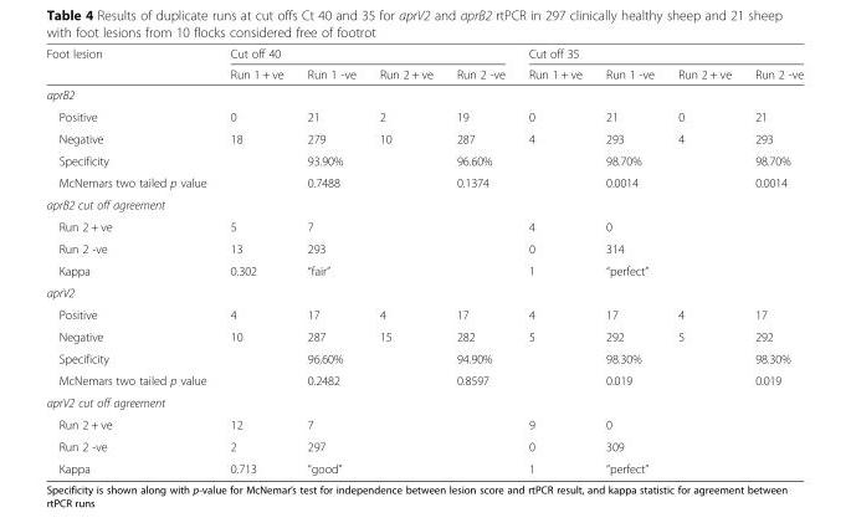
<table><thead><tr><td rowspan="2">Foot lesion</td><td colspan="4">Cut off 40</td><td colspan="4">Cut off 35</td></tr><tr><td>Run 1 + ve</td><td>Run 1 -ve</td><td>Run 2 + ve</td><td>Run 2 -ve</td><td>Run 1 + ve</td><td>Run 1 -ve</td><td>Run 2 + ve</td><td>Run 2 -ve</td></tr></thead><tbody><tr><td colspan="9">aprB2</td></tr><tr><td>Positive</td><td>0</td><td>21</td><td>2</td><td>19</td><td>0</td><td>21</td><td>0</td><td>21</td></tr><tr><td>Negative</td><td>18</td><td>279</td><td>10</td><td>287</td><td>4</td><td>293</td><td>4</td><td>293</td></tr><tr><td>Specificity</td><td></td><td>93.90%</td><td></td><td>96.60%</td><td></td><td>98.70%</td><td></td><td>98.70%</td></tr><tr><td>McNemars two tailed p value</td><td></td><td>0.7488</td><td></td><td>0.1374</td><td></td><td>0.0014</td><td></td><td>0.0014</td></tr><tr><td colspan="9">aprB2 cut off agreement</td></tr><tr><td>Run 2 + ve</td><td>5</td><td>7</td><td></td><td></td><td>4</td><td>0</td><td></td><td></td></tr><tr><td>Run 2 -ve</td><td>13</td><td>293</td><td></td><td></td><td>0</td><td>314</td><td></td><td></td></tr><tr><td>Kappa</td><td>0.302</td><td>“fair”</td><td></td><td></td><td>1</td><td>“perfect”</td><td></td><td></td></tr><tr><td colspan="9">aprV2</td></tr><tr><td>Positive</td><td>4</td><td>17</td><td>4</td><td>17</td><td>4</td><td>17</td><td>4</td><td>17</td></tr><tr><td>Negative</td><td>10</td><td>287</td><td>15</td><td>282</td><td>5</td><td>292</td><td>5</td><td>292</td></tr><tr><td>Specificity</td><td></td><td>96.60%</td><td></td><td>94.90%</td><td></td><td>98.30%</td><td></td><td>98.30%</td></tr><tr><td>McNemars two tailed p value</td><td></td><td>0.2482</td><td></td><td>0.8597</td><td></td><td>0.019</td><td></td><td>0.019</td></tr><tr><td colspan="9">aprV2 cut off agreement</td></tr><tr><td>Run 2 + ve</td><td>12</td><td>7</td><td></td><td></td><td>9</td><td>0</td><td></td><td></td></tr><tr><td>Run 2 -ve</td><td>2</td><td>297</td><td></td><td></td><td>0</td><td>309</td><td></td><td></td></tr><tr><td>Kappa</td><td>0.713</td><td>“good”</td><td></td><td></td><td>1</td><td>“perfect”</td><td></td><td></td></tr></tbody></table>